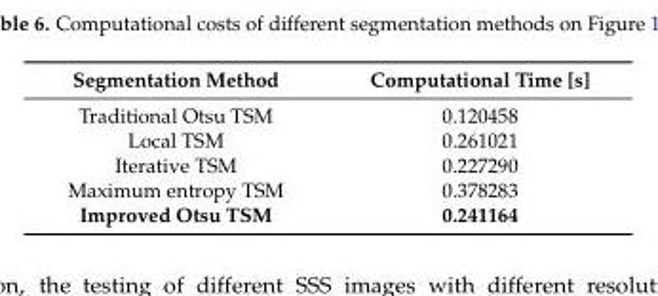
<table><thead><tr><td>Segmentation Method</td><td>Computational Time [s]</td></tr></thead><tbody><tr><td>Traditional Otsu TSM</td><td>0.120458</td></tr><tr><td>Local TSM</td><td>0.261021</td></tr><tr><td>Iterative TSM</td><td>0.227290</td></tr><tr><td>Maximum entropy TSM</td><td>0.378283</td></tr><tr><td>Improved Otsu TSM</td><td>0.241164</td></tr></tbody></table>